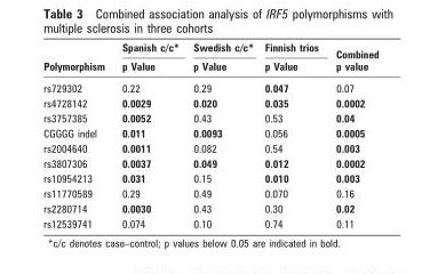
<table><thead><tr><td rowspan="2">Polymorphism</td><td rowspan="2">Spanish c/c* p Value</td><td rowspan="2">Swedish c/c* p Value</td><td rowspan="2">Finnish trios p Value</td><td rowspan="2">Combined p value</td></tr><tr></tr></thead><tbody><tr><td>rs729302</td><td>0.22</td><td>0.29</td><td>0.047</td><td>0.07</td></tr><tr><td>rs4728142</td><td>0.0029</td><td>0.020</td><td>0.035</td><td>0.0002</td></tr><tr><td>rs3757385</td><td>0.0052</td><td>0.43</td><td>0.53</td><td>0.04</td></tr><tr><td>CGGGG indel</td><td>0.011</td><td>0.0093</td><td>0.056</td><td>0.0005</td></tr><tr><td>rs2004640</td><td>0.0011</td><td>0.082</td><td>0.54</td><td>0.003</td></tr><tr><td>rs3807306</td><td>0.0037</td><td>0.049</td><td>0.012</td><td>0.0002</td></tr><tr><td>rs10954213</td><td>0.031</td><td>0.15</td><td>0.010</td><td>0.003</td></tr><tr><td>rs11770589</td><td>0.29</td><td>0.49</td><td>0.070</td><td>0.16</td></tr><tr><td>rs2280714</td><td>0.0030</td><td>0.43</td><td>0.30</td><td>0.02</td></tr><tr><td>rs12539741</td><td>0.074</td><td>0.10</td><td>0.74</td><td>0.11</td></tr></tbody></table>